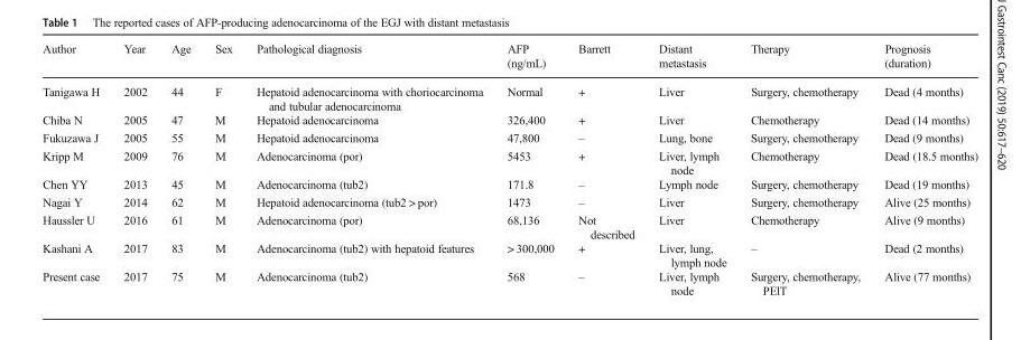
<table><thead><tr><td>Author</td><td>Year</td><td>Age</td><td>Sex</td><td>Pathological diagnosis</td><td>AFP (ng/mL)</td><td>Barrett</td><td>Distant metastasis</td><td>Therapy</td><td>Prognosis (duration)</td></tr></thead><tbody><tr><td>Tanigawa H</td><td>2002</td><td>44</td><td>F</td><td>Hepatoid adenocarcinoma with choriocarcinoma and tubular adenocarcinoma</td><td>Normal</td><td>+</td><td>Liver</td><td>Surgery, chemotherapy</td><td>Dead (4 months)</td></tr><tr><td>Chiba N</td><td>2005</td><td>47</td><td>M</td><td>Hepatoid adenocarcinoma</td><td>326,400</td><td>+</td><td>Liver</td><td>Chemotherapy</td><td>Dead (14 months)</td></tr><tr><td>Fukuzawa J</td><td>2005</td><td>55</td><td>M</td><td>Hepatoid adenocarcinoma</td><td>47,800</td><td>–</td><td>Lung, bone</td><td>Surgery, chemotherapy</td><td>Dead (9 months)</td></tr><tr><td>Kripp M</td><td>2009</td><td>76</td><td>M</td><td>Adenocarcinoma (por)</td><td>5453</td><td>+</td><td>Liver, lymph node</td><td>Chemotherapy</td><td>Dead (18.5 months)</td></tr><tr><td>Chen YY</td><td>2013</td><td>45</td><td>M</td><td>Adenocarcinoma (tub2)</td><td>171.8</td><td>–</td><td>Lymph node</td><td>Surgery, chemotherapy</td><td>Dead (19 months)</td></tr><tr><td>Nagai Y</td><td>2014</td><td>62</td><td>M</td><td>Hepatoid adenocarcinoma (tub2 &gt; por)</td><td>1473</td><td>–</td><td>Liver</td><td>Surgery, chemotherapy</td><td>Alive (25 months)</td></tr><tr><td>Haussler U</td><td>2016</td><td>61</td><td>M</td><td>Adenocarcinoma (por)</td><td>68,136</td><td>Not described</td><td>Liver</td><td>Chemotherapy</td><td>Alive (9 months)</td></tr><tr><td>Kashani A</td><td>2017</td><td>83</td><td>M</td><td>Adenocarcinoma (tub2) with hepatoid features</td><td>&gt; 300,000</td><td>+</td><td>Liver, lung, lymph node</td><td>–</td><td>Dead (2 months)</td></tr><tr><td>Present case</td><td>2017</td><td>75</td><td>M</td><td>Adenocarcinoma (tub2)</td><td>568</td><td>–</td><td>Liver, lymph node</td><td>Surgery, chemotherapy, PElT</td><td>Alive (77 months)</td></tr></tbody></table>